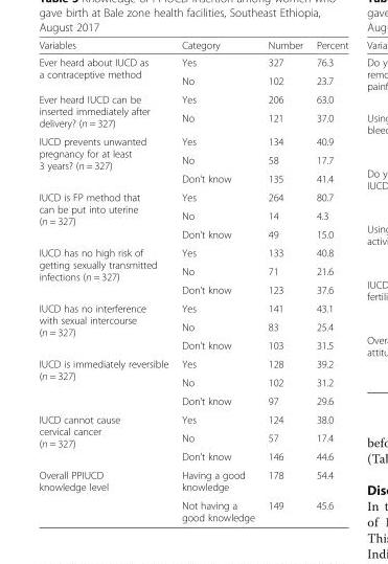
<table><thead><tr><td>Variables</td><td>Category</td><td>Number</td><td>Percent</td></tr></thead><tbody><tr><td rowspan="2">Ever heard about IUCD as a contraceptive method</td><td>Yes</td><td>327</td><td>76.3</td></tr><tr><td>No</td><td>102</td><td>23.7</td></tr><tr><td rowspan="2">Ever heard IUCD can be inserted immediately after delivery? (n = 327)</td><td>Yes</td><td>206</td><td>63.0</td></tr><tr><td>No</td><td>121</td><td>37.0</td></tr><tr><td rowspan="3">IUCD prevents unwanted pregnancy for at least 3 years? (n = 327)</td><td>Yes</td><td>134</td><td>40.9</td></tr><tr><td>No</td><td>58</td><td>17.7</td></tr><tr><td>Don’t know</td><td>135</td><td>41.4</td></tr><tr><td rowspan="3">IUCD is FP method that can be put into uterine (n = 327)</td><td>Yes</td><td>264</td><td>80.7</td></tr><tr><td>No</td><td>14</td><td>4.3</td></tr><tr><td>Don’t know</td><td>49</td><td>15.0</td></tr><tr><td rowspan="3">IUCD has no high risk of getting sexually transmitted infections (n = 327)</td><td>Yes</td><td>133</td><td>40.8</td></tr><tr><td>No</td><td>71</td><td>21.6</td></tr><tr><td>Don’t know</td><td>123</td><td>37.6</td></tr><tr><td rowspan="3">IUCD has no interference with sexual intercourse (n = 327)</td><td>Yes</td><td>141</td><td>43.1</td></tr><tr><td>No</td><td>83</td><td>25.4</td></tr><tr><td>Don’t know</td><td>103</td><td>31.5</td></tr><tr><td rowspan="3">IUCD is immediately reversible (n = 327)</td><td>Yes</td><td>128</td><td>39.2</td></tr><tr><td>No</td><td>102</td><td>31.2</td></tr><tr><td>Don’t know</td><td>97</td><td>29.6</td></tr><tr><td rowspan="3">IUCD cannot cause cervical cancer (n = 327)</td><td>Yes</td><td>124</td><td>38.0</td></tr><tr><td>No</td><td>57</td><td>17.4</td></tr><tr><td>Don’t know</td><td>146</td><td>44.6</td></tr><tr><td rowspan="2">Overall PPIUCD knowledge level</td><td>Having a good knowledge</td><td>178</td><td>54.4</td></tr><tr><td>Not having a good knowledge</td><td>149</td><td>45.6</td></tr></tbody></table>